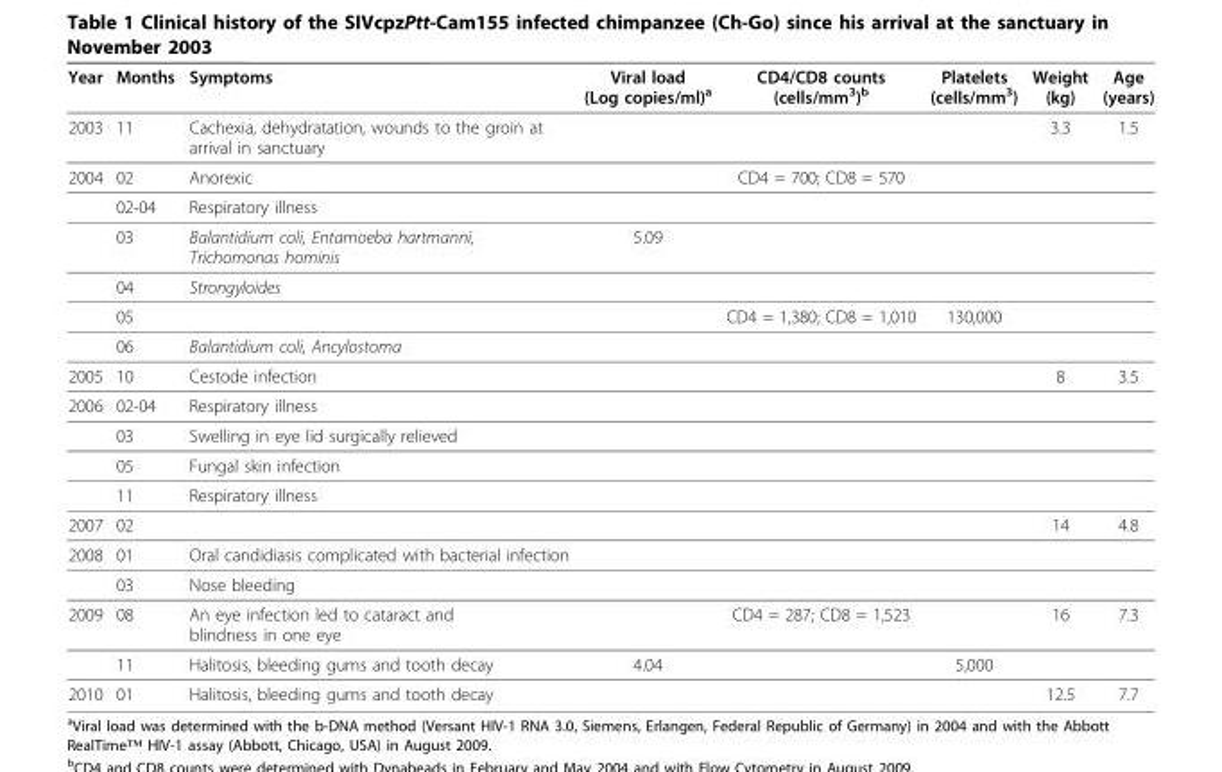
<table><thead><tr><td>Year</td><td>Months</td><td>Symptoms</td><td>Viral load (Log copies/ml)<sup>a</sup></td><td>CD4/CD8 counts (cells/mm<sup>3</sup>)<sup>b</sup></td><td>Platelets (cells/mm<sup>3</sup>)</td><td>Weight (kg)</td><td>Age (years)</td></tr></thead><tbody><tr><td>2003</td><td>11</td><td>Cachexia, dehydratation, wounds to the groin at arrival in sanctuary</td><td></td><td></td><td></td><td>3.3</td><td>1.5</td></tr><tr><td rowspan="6">2004</td><td>02</td><td>Anorexic</td><td></td><td>CD4 = 700; CD8 = 570</td><td></td><td></td><td></td></tr><tr><td>02-04</td><td>Respiratory illness</td><td></td><td></td><td></td><td></td><td></td></tr><tr><td>03</td><td>Balantidium coli, Entamoeba hartmanni, Trichomonas hominis</td><td>5.09</td><td></td><td></td><td></td><td></td></tr><tr><td>04</td><td>Strongyloides</td><td></td><td></td><td></td><td></td><td></td></tr><tr><td>05</td><td></td><td></td><td>CD4 = 1,380; CD8 = 1,010</td><td>130,000</td><td></td><td></td></tr><tr><td>06</td><td>Balantidium coli, Ancylostoma</td><td></td><td></td><td></td><td></td><td></td></tr><tr><td>2005</td><td>10</td><td>Cestode infection</td><td></td><td></td><td></td><td>8</td><td>3.5</td></tr><tr><td rowspan="4">2006</td><td>02-04</td><td>Respiratory illness</td><td></td><td></td><td></td><td></td><td></td></tr><tr><td>03</td><td>Swelling in eye lid surgically relieved</td><td></td><td></td><td></td><td></td><td></td></tr><tr><td>05</td><td>Fungal skin infection</td><td></td><td></td><td></td><td></td><td></td></tr><tr><td>11</td><td>Respiratory illness</td><td></td><td></td><td></td><td></td><td></td></tr><tr><td>2007</td><td>02</td><td></td><td></td><td></td><td></td><td>14</td><td>4.8</td></tr><tr><td rowspan="2">2008</td><td>01</td><td>Oral candidiasis complicated with bacterial infection</td><td></td><td></td><td></td><td></td><td></td></tr><tr><td>03</td><td>Nose bleeding</td><td></td><td></td><td></td><td></td><td></td></tr><tr><td rowspan="2">2009</td><td>08</td><td>An eye infection led to cataract and blindness in one eye</td><td></td><td>CD4 = 287; CD8 = 1,523</td><td></td><td>16</td><td>7.3</td></tr><tr><td>11</td><td>Halitosis, bleeding gums and tooth decay</td><td>4.04</td><td></td><td>5,000</td><td></td><td></td></tr><tr><td>2010</td><td>01</td><td>Halitosis, bleeding gums and tooth decay</td><td></td><td></td><td></td><td>12.5</td><td>7.7</td></tr></tbody></table>